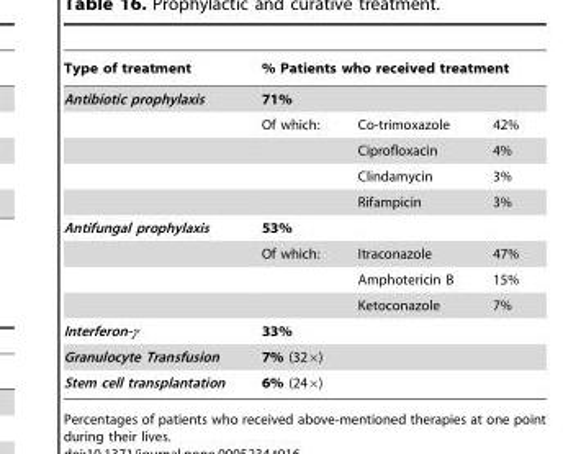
<table><thead><tr><td rowspan="3">Type of treatment Antibiotic prophylaxis</td><td rowspan="2" colspan="3">% Patients who received treatment 71%</td></tr><tr></tr><tr><td>Of which:</td><td>Co-trimoxazole</td><td>42%</td></tr></thead><tbody><tr><td></td><td></td><td>Ciprofloxacin</td><td>4%</td></tr><tr><td></td><td></td><td>Clindamycin</td><td>3%</td></tr><tr><td></td><td></td><td>Rifampicin</td><td>3%</td></tr><tr><td rowspan="4">Antifungal prophylaxis</td><td colspan="3">53%</td></tr><tr><td>Of which:</td><td>Itraconazole</td><td>47%</td></tr><tr><td></td><td>Amphotericin B</td><td>15%</td></tr><tr><td></td><td>Ketoconazole</td><td>7%</td></tr><tr><td>Interferon-γ</td><td colspan="3">33%</td></tr><tr><td>Granulocyte Transfusion</td><td colspan="3">7% (32×)</td></tr><tr><td>Stem cell transplantation</td><td colspan="3">6% (24×)</td></tr></tbody></table>